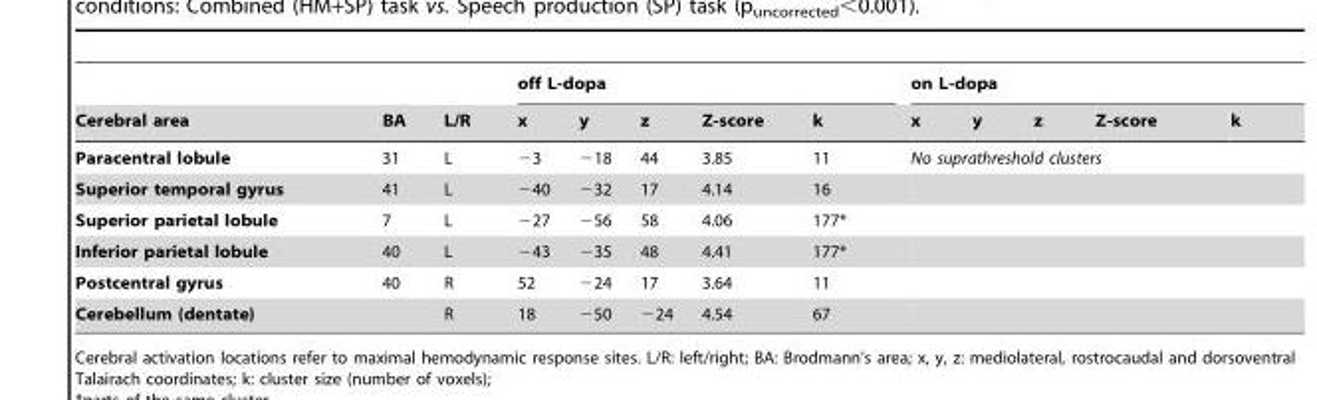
<table><thead><tr><td rowspan="2">Cerebral area</td><td rowspan="2">BA</td><td rowspan="2">L/R</td><td colspan="5">off L-dopa</td><td colspan="5">on L-dopa</td></tr><tr><td>x</td><td>y</td><td>z</td><td>Z-score</td><td>k</td><td>x</td><td>y</td><td>z</td><td>Z-score</td><td>k</td></tr></thead><tbody><tr><td>Paracentral lobule</td><td>31</td><td>L</td><td>−3</td><td>−18</td><td>44</td><td>3.85</td><td>11</td><td colspan="5">No suprathreshold clusters</td></tr><tr><td>Superior temporal gyrus</td><td>41</td><td>L</td><td>−40</td><td>−32</td><td>17</td><td>4.14</td><td>16</td><td colspan="5"></td></tr><tr><td>Superior parietal lobule</td><td>7</td><td>L</td><td>−27</td><td>−56</td><td>58</td><td>4.06</td><td>177*</td><td colspan="5"></td></tr><tr><td>Inferior parietal lobule</td><td>40</td><td>L</td><td>−43</td><td>−35</td><td>48</td><td>4.41</td><td>177*</td><td colspan="5"></td></tr><tr><td>Postcentral gyrus</td><td>40</td><td>R</td><td>52</td><td>−24</td><td>17</td><td>3.64</td><td>11</td><td colspan="5"></td></tr><tr><td>Cerebellum (dentate)</td><td></td><td>R</td><td>18</td><td>−50</td><td>−24</td><td>4.54</td><td>67</td><td colspan="5"></td></tr></tbody></table>